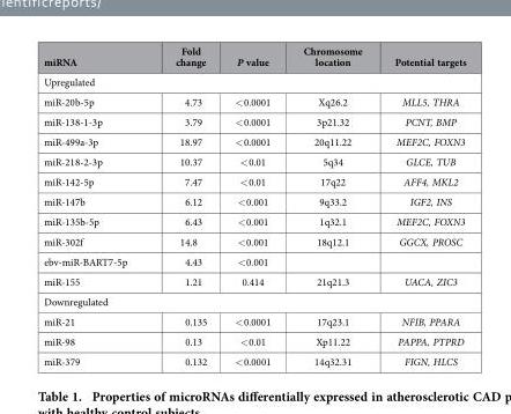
<table><thead><tr><td>miRNA</td><td>Fold change</td><td>P value</td><td>Chromosome location</td><td>Potential targets</td></tr></thead><tbody><tr><td colspan="5">Upregulated</td></tr><tr><td>miR-20b-5p</td><td>4.73</td><td>&lt; 0.0001</td><td>Xq26.2</td><td>MLL5, THRA</td></tr><tr><td>miR-138-1-3p</td><td>3.79</td><td>&lt; 0.0001</td><td>3p21.32</td><td>PCNT, BMP</td></tr><tr><td>miR-499a-3p</td><td>18.97</td><td>&lt; 0.0001</td><td>20q11.22</td><td>MEF2C, FOXN3</td></tr><tr><td>miR-218-2-3p</td><td>10.37</td><td>&lt; 0.01</td><td>5q34</td><td>GLCE, TUB</td></tr><tr><td>miR-142-5p</td><td>7.47</td><td>&lt; 0.01</td><td>17q22</td><td>AFF4, MKL2</td></tr><tr><td>miR-147b</td><td>6.12</td><td>&lt; 0.001</td><td>9q33.2</td><td>IGF2, INS</td></tr><tr><td>miR-135b-5p</td><td>6.43</td><td>&lt; 0.001</td><td>1q32.1</td><td>MEF2C, FOXN3</td></tr><tr><td>miR-302f</td><td>14.8</td><td>&lt; 0.001</td><td>18q12.1</td><td>GGCX, PROSC</td></tr><tr><td>ebv-miR-BART7-5p</td><td>4.43</td><td>&lt; 0.001</td><td></td><td></td></tr><tr><td>miR-155</td><td>1.21</td><td>0.414</td><td>21q21.3</td><td>UACA, ZIC3</td></tr><tr><td colspan="5">Downregulated</td></tr><tr><td>miR-21</td><td>0.135</td><td>&lt; 0.0001</td><td>17q23.1</td><td>NFIB, PPARA</td></tr><tr><td>miR-98</td><td>0.13</td><td>&lt; 0.01</td><td>Xp11.22</td><td>PAPPA, PTPRD</td></tr><tr><td>miR-379</td><td>0.132</td><td>&lt; 0.0001</td><td>14q32.31</td><td>FIGN, HLCS</td></tr></tbody></table>